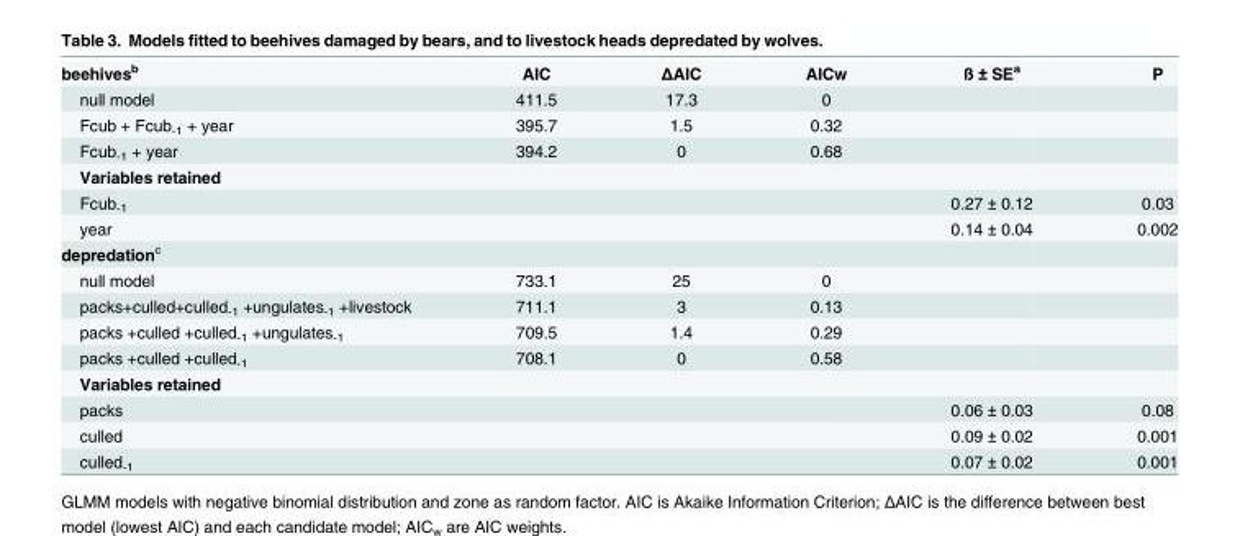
<table><tbody><tr><td>beehives<sup>b</sup></td><td>AIC</td><td>ΔAIC</td><td>AICw</td><td>ß ± SE<sup>a</sup></td><td>P</td></tr><tr><td>null model</td><td>411.5</td><td>17.3</td><td>0</td><td></td><td></td></tr><tr><td>Fcub + Fcub<sub>-1</sub> + year</td><td>395.7</td><td>1.5</td><td>0.32</td><td></td><td></td></tr><tr><td>Fcub<sub>-1</sub> + year</td><td>394.2</td><td>0</td><td>0.68</td><td></td><td></td></tr><tr><td colspan="6">Variables retained</td></tr><tr><td>Fcub<sub>-1</sub></td><td></td><td></td><td></td><td>0.27 ± 0.12</td><td>0.03</td></tr><tr><td>year</td><td></td><td></td><td></td><td>0.14 ± 0.04</td><td>0.002</td></tr><tr><td colspan="6">depredation<sup>c</sup></td></tr><tr><td>null model</td><td>733.1</td><td>25</td><td>0</td><td></td><td></td></tr><tr><td>packs+culled+culled<sub>-1</sub> +ungulates<sub>-1</sub> +livestock</td><td>711.1</td><td>3</td><td>0.13</td><td></td><td></td></tr><tr><td>packs +culled +culled<sub>-1</sub> +ungulates<sub>-1</sub></td><td>709.5</td><td>1.4</td><td>0.29</td><td></td><td></td></tr><tr><td>packs +culled +culled<sub>-1</sub></td><td>708.1</td><td>0</td><td>0.58</td><td></td><td></td></tr><tr><td colspan="6">Variables retained</td></tr><tr><td>packs</td><td></td><td></td><td></td><td>0.06 ± 0.03</td><td>0.08</td></tr><tr><td>culled</td><td></td><td></td><td></td><td>0.09 ± 0.02</td><td>0.001</td></tr><tr><td>culled<sub>-1</sub></td><td></td><td></td><td></td><td>0.07 ± 0.02</td><td>0.001</td></tr></tbody></table>